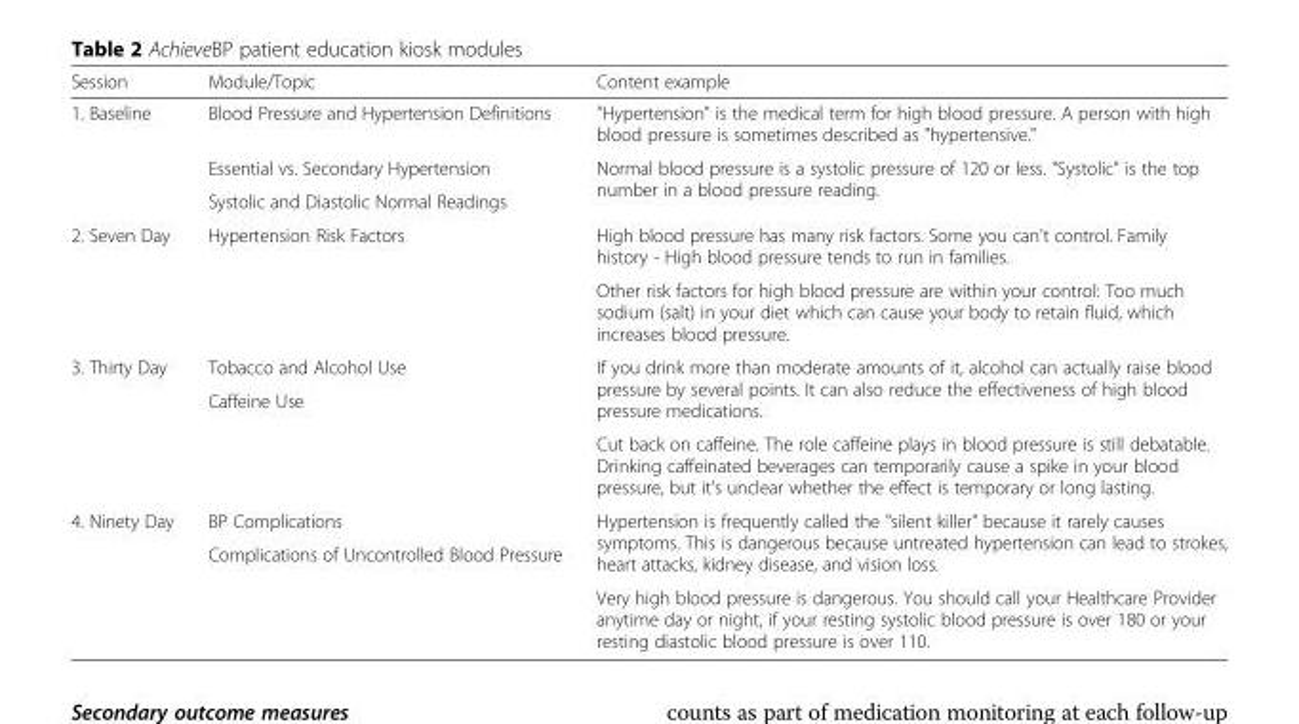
<table><thead><tr><td>Session</td><td>Module/Topic</td><td>Content example</td></tr></thead><tbody><tr><td rowspan="3">1. Baseline</td><td>Blood Pressure and Hypertension Definitions</td><td>&quot;Hypertension&quot; is the medical term for high blood pressure. A person with high blood pressure is sometimes described as &quot;hypertensive.&quot;</td></tr><tr><td>Essential vs. Secondary Hypertension</td><td rowspan="2">Normal blood pressure is a systolic pressure of 120 or less. &quot;Systolic&quot; is the top number in a blood pressure reading.</td></tr><tr><td>Systolic and Diastolic Normal Readings</td></tr><tr><td rowspan="2">2. Seven Day</td><td rowspan="2">Hypertension Risk Factors</td><td>High blood pressure has many risk factors. Some you can&#x27;t control. Family history - High blood pressure tends to run in families.</td></tr><tr><td>Other risk factors for high blood pressure are within your control: Too much sodium (salt) in your diet which can cause your body to retain fluid, which increases blood pressure.</td></tr><tr><td rowspan="3">3. Thirty Day</td><td>Tobacco and Alcohol Use</td><td rowspan="2">If you drink more than moderate amounts of it, alcohol can actually raise blood pressure by several points. It can also reduce the effectiveness of high blood pressure medications.</td></tr><tr><td rowspan="2">Caffeine Use</td></tr><tr><td>Cut back on caffeine. The role caffeine plays in blood pressure is still debatable. Drinking caffeinated beverages can temporarily cause a spike in your blood pressure, but it&#x27;s unclear whether the effect is temporary or long lasting.</td></tr><tr><td rowspan="3">4. Ninety Day</td><td>BP Complications</td><td rowspan="2">Hypertension is frequently called the &quot;silent killer&quot; because it rarely causes symptoms. This is dangerous because untreated hypertension can lead to strokes, heart attacks, kidney disease, and vision loss.</td></tr><tr><td rowspan="2">Complications of Uncontrolled Blood Pressure</td></tr><tr><td>Very high blood pressure is dangerous. You should call your Healthcare Provider anytime day or night, if your resting systolic blood pressure is over 180 or your resting diastolic blood pressure is over 110.</td></tr></tbody></table>